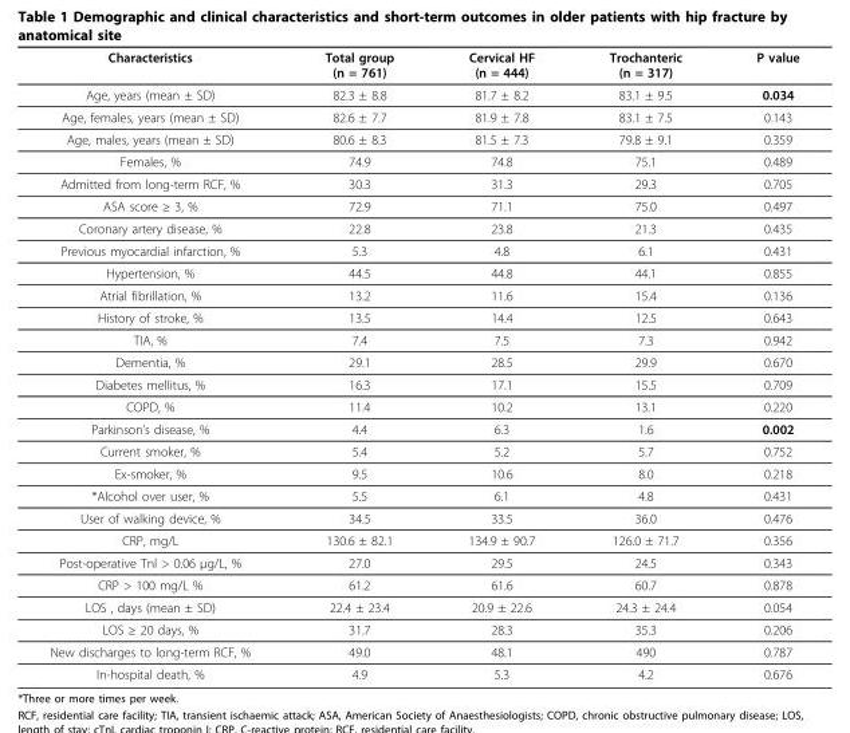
<table><thead><tr><td>Characteristics</td><td>Total group (n = 761)</td><td>Cervical HF (n = 444)</td><td>Trochanteric (n = 317)</td><td>P value</td></tr></thead><tbody><tr><td>Age, years (mean ± SD)</td><td>82.3 ± 8.8</td><td>81.7 ± 8.2</td><td>83.1 ± 9.5</td><td>0.034</td></tr><tr><td>Age, females, years (mean ± SD)</td><td>82.6 ± 7.7</td><td>81.9 ± 7.8</td><td>83.1 ± 7.5</td><td>0.143</td></tr><tr><td>Age, males, years (mean ± SD)</td><td>80.6 ± 8.3</td><td>81.5 ± 7.3</td><td>79.8 ± 9.1</td><td>0.359</td></tr><tr><td>Females, %</td><td>74.9</td><td>74.8</td><td>75.1</td><td>0.489</td></tr><tr><td>Admitted from long-term RCF, %</td><td>30.3</td><td>31.3</td><td>29.3</td><td>0.705</td></tr><tr><td>ASA score ≥ 3, %</td><td>72.9</td><td>71.1</td><td>75.0</td><td>0.497</td></tr><tr><td>Coronary artery disease, %</td><td>22.8</td><td>23.8</td><td>21.3</td><td>0.435</td></tr><tr><td>Previous myocardial infarction, %</td><td>5.3</td><td>4.8</td><td>6.1</td><td>0.431</td></tr><tr><td>Hypertension, %</td><td>44.5</td><td>44.8</td><td>44.1</td><td>0.855</td></tr><tr><td>Atrial fibrillation, %</td><td>13.2</td><td>11.6</td><td>15.4</td><td>0.136</td></tr><tr><td>History of stroke, %</td><td>13.5</td><td>14.4</td><td>12.5</td><td>0.643</td></tr><tr><td>TIA, %</td><td>7.4</td><td>7.5</td><td>7.3</td><td>0.942</td></tr><tr><td>Dementia, %</td><td>29.1</td><td>28.5</td><td>29.9</td><td>0.670</td></tr><tr><td>Diabetes mellitus, %</td><td>16.3</td><td>17.1</td><td>15.5</td><td>0.709</td></tr><tr><td>COPD, %</td><td>11.4</td><td>10.2</td><td>13.1</td><td>0.220</td></tr><tr><td>Parkinson’s disease, %</td><td>4.4</td><td>6.3</td><td>1.6</td><td>0.002</td></tr><tr><td>Current smoker, %</td><td>5.4</td><td>5.2</td><td>5.7</td><td>0.752</td></tr><tr><td>Ex-smoker, %</td><td>9.5</td><td>10.6</td><td>8.0</td><td>0.218</td></tr><tr><td>*Alcohol over user, %</td><td>5.5</td><td>6.1</td><td>4.8</td><td>0.431</td></tr><tr><td>User of walking device, %</td><td>34.5</td><td>33.5</td><td>36.0</td><td>0.476</td></tr><tr><td>CRP, mg/L</td><td>130.6 ± 82.1</td><td>134.9 ± 90.7</td><td>126.0 ± 71.7</td><td>0.356</td></tr><tr><td>Post-operative Tnl &gt; 0.06 μg/L, %</td><td>27.0</td><td>29.5</td><td>24.5</td><td>0.343</td></tr><tr><td>CRP &gt; 100 mg/L %</td><td>61.2</td><td>61.6</td><td>60.7</td><td>0.878</td></tr><tr><td>LOS , days (mean ± SD)</td><td>22.4 ± 23.4</td><td>20.9 ± 22.6</td><td>24.3 ± 24.4</td><td>0.054</td></tr><tr><td>LOS ≥ 20 days, %</td><td>31.7</td><td>28.3</td><td>35.3</td><td>0.206</td></tr><tr><td>New discharges to long-term RCF, %</td><td>49.0</td><td>48.1</td><td>490</td><td>0.787</td></tr><tr><td>In-hospital death, %</td><td>4.9</td><td>5.3</td><td>4.2</td><td>0.676</td></tr></tbody></table>